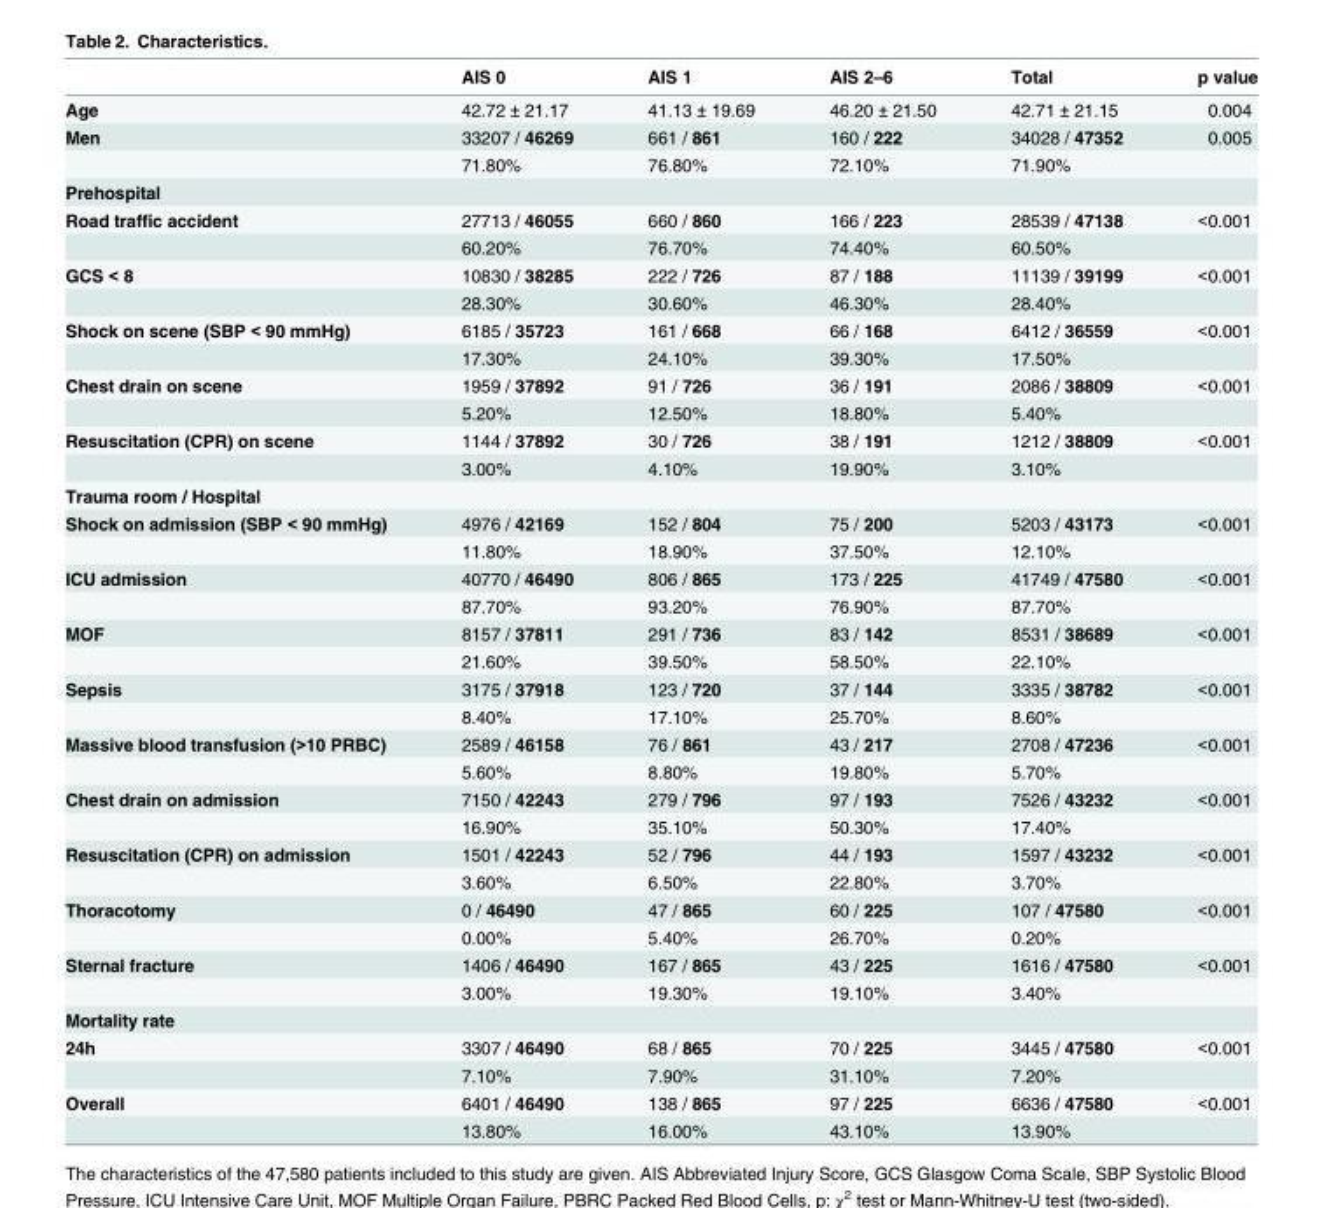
<table><thead><tr><td></td><td>AIS 0</td><td>AIS 1</td><td>AIS 2–6</td><td>Total</td><td>p value</td></tr></thead><tbody><tr><td>Age</td><td>42.72 ± 21.17</td><td>41.13 ± 19.69</td><td>46.20 ± 21.50</td><td>42.71 ± 21.15</td><td>0.004</td></tr><tr><td rowspan="2">Men</td><td>33207 / 46269</td><td>661 / 861</td><td>160 / 222</td><td>34028 / 47352</td><td>0.005</td></tr><tr><td>71.80%</td><td>76.80%</td><td>72.10%</td><td>71.90%</td><td></td></tr><tr><td colspan="6">Prehospital</td></tr><tr><td rowspan="2">Road traffic accident</td><td>27713 / 46055</td><td>660 / 860</td><td>166 / 223</td><td>28539 / 47138</td><td>&lt;0.001</td></tr><tr><td>60.20%</td><td>76.70%</td><td>74.40%</td><td>60.50%</td><td></td></tr><tr><td rowspan="2">GCS &lt; 8</td><td>10830 / 38285</td><td>222 / 726</td><td>87 / 188</td><td>11139 / 39199</td><td>&lt;0.001</td></tr><tr><td>28.30%</td><td>30.60%</td><td>46.30%</td><td>28.40%</td><td></td></tr><tr><td rowspan="2">Shock on scene (SBP &lt; 90 mmHg)</td><td>6185 / 35723</td><td>161 / 668</td><td>66 / 168</td><td>6412 / 36559</td><td>&lt;0.001</td></tr><tr><td>17.30%</td><td>24.10%</td><td>39.30%</td><td>17.50%</td><td></td></tr><tr><td rowspan="2">Chest drain on scene</td><td>1959 / 37892</td><td>91 / 726</td><td>36 / 191</td><td>2086 / 38809</td><td>&lt;0.001</td></tr><tr><td>5.20%</td><td>12.50%</td><td>18.80%</td><td>5.40%</td><td></td></tr><tr><td rowspan="2">Resuscitation (CPR) on scene</td><td>1144 / 37892</td><td>30 / 726</td><td>38 / 191</td><td>1212 / 38809</td><td>&lt;0.001</td></tr><tr><td>3.00%</td><td>4.10%</td><td>19.90%</td><td>3.10%</td><td></td></tr><tr><td colspan="6">Trauma room / Hospital</td></tr><tr><td rowspan="2">Shock on admission (SBP &lt; 90 mmHg)</td><td>4976 / 42169</td><td>152 / 804</td><td>75 / 200</td><td>5203 / 43173</td><td>&lt;0.001</td></tr><tr><td>11.80%</td><td>18.90%</td><td>37.50%</td><td>12.10%</td><td></td></tr><tr><td rowspan="2">ICU admission</td><td>40770 / 46490</td><td>806 / 865</td><td>173 / 225</td><td>41749 / 47580</td><td>&lt;0.001</td></tr><tr><td>87.70%</td><td>93.20%</td><td>76.90%</td><td>87.70%</td><td></td></tr><tr><td rowspan="2">MOF</td><td>8157 / 37811</td><td>291 / 736</td><td>83 / 142</td><td>8531 / 38689</td><td>&lt;0.001</td></tr><tr><td>21.60%</td><td>39.50%</td><td>58.50%</td><td>22.10%</td><td></td></tr><tr><td rowspan="2">Sepsis</td><td>3175 / 37918</td><td>123 / 720</td><td>37 / 144</td><td>3335 / 38782</td><td>&lt;0.001</td></tr><tr><td>8.40%</td><td>17.10%</td><td>25.70%</td><td>8.60%</td><td></td></tr><tr><td rowspan="2">Massive blood transfusion (&gt;10 PRBC)</td><td>2589 / 46158</td><td>76 / 861</td><td>43 / 217</td><td>2708 / 47236</td><td>&lt;0.001</td></tr><tr><td>5.60%</td><td>8.80%</td><td>19.80%</td><td>5.70%</td><td></td></tr><tr><td rowspan="2">Chest drain on admission</td><td>7150 / 42243</td><td>279 / 796</td><td>97 / 193</td><td>7526 / 43232</td><td>&lt;0.001</td></tr><tr><td>16.90%</td><td>35.10%</td><td>50.30%</td><td>17.40%</td><td></td></tr><tr><td rowspan="2">Resuscitation (CPR) on admission</td><td>1501 / 42243</td><td>52 / 796</td><td>44 / 193</td><td>1597 / 43232</td><td>&lt;0.001</td></tr><tr><td>3.60%</td><td>6.50%</td><td>22.80%</td><td>3.70%</td><td></td></tr><tr><td rowspan="2">Thoracotomy</td><td>0 / 46490</td><td>47 / 865</td><td>60 / 225</td><td>107 / 47580</td><td>&lt;0.001</td></tr><tr><td>0.00%</td><td>5.40%</td><td>26.70%</td><td>0.20%</td><td></td></tr><tr><td rowspan="2">Sternal fracture</td><td>1406 / 46490</td><td>167 / 865</td><td>43 / 225</td><td>1616 / 47580</td><td>&lt;0.001</td></tr><tr><td>3.00%</td><td>19.30%</td><td>19.10%</td><td>3.40%</td><td></td></tr><tr><td colspan="6">Mortality rate</td></tr><tr><td rowspan="2">24h</td><td>3307 / 46490</td><td>68 / 865</td><td>70 / 225</td><td>3445 / 47580</td><td>&lt;0.001</td></tr><tr><td>7.10%</td><td>7.90%</td><td>31.10%</td><td>7.20%</td><td></td></tr><tr><td rowspan="2">Overall</td><td>6401 / 46490</td><td>138 / 865</td><td>97 / 225</td><td>6636 / 47580</td><td>&lt;0.001</td></tr><tr><td>13.80%</td><td>16.00%</td><td>43.10%</td><td>13.90%</td><td></td></tr></tbody></table>